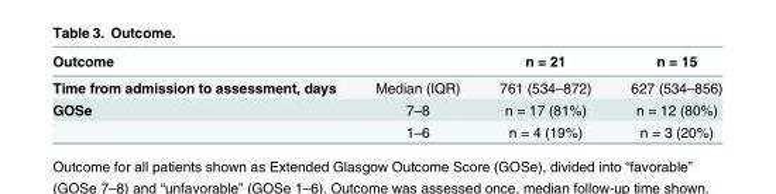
<table><thead><tr><td>Outcome</td><td></td><td>n = 21</td><td>n = 15</td></tr></thead><tbody><tr><td>Time from admission to assessment, days</td><td>Median (IQR)</td><td>761 (534–872)</td><td>627 (534–856)</td></tr><tr><td rowspan="2">GOSe</td><td>7–8</td><td>n = 17 (81%)</td><td>n = 12 (80%)</td></tr><tr><td>1–6</td><td>n = 4 (19%)</td><td>n = 3 (20%)</td></tr></tbody></table>